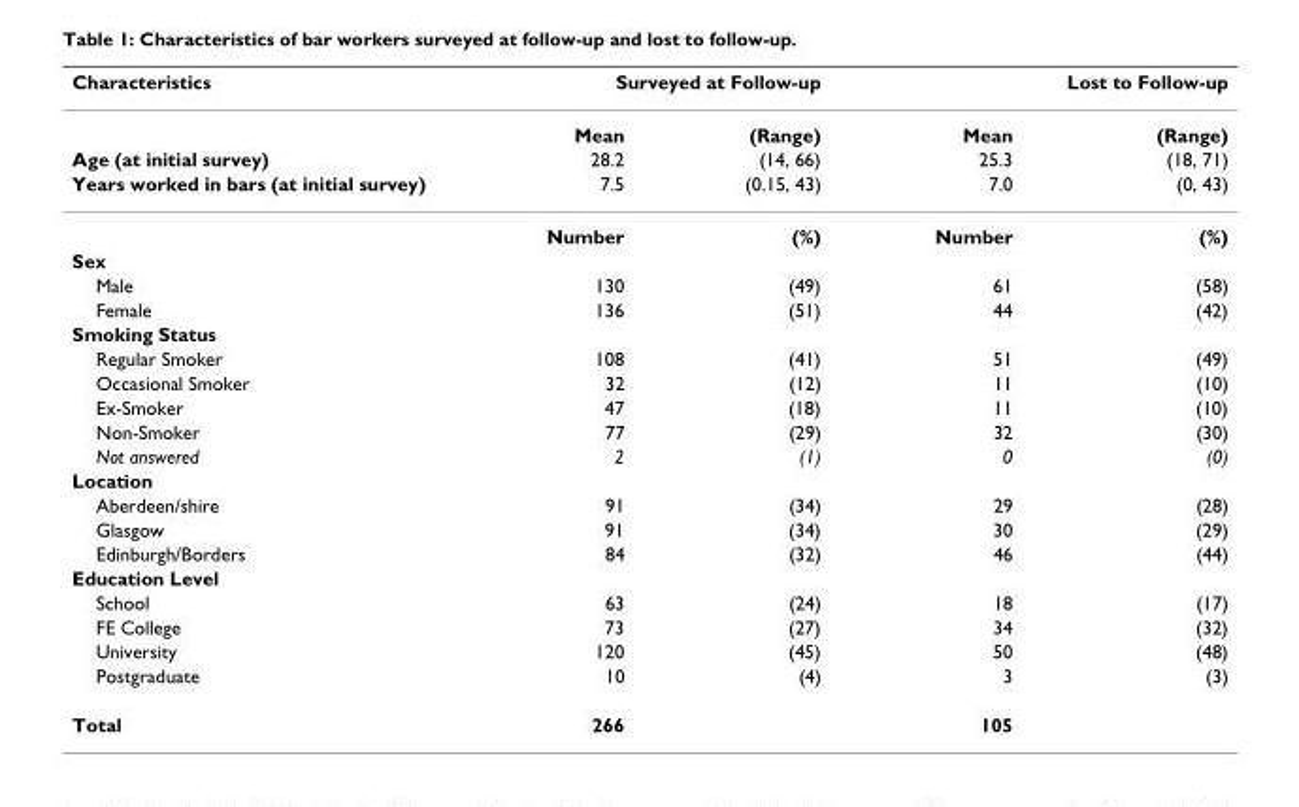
<table><thead><tr><td rowspan="2">Characteristics</td><td colspan="2">Surveyed at Follow-up</td><td colspan="2">Lost to Follow-up</td></tr><tr><td>Mean</td><td>(Range)</td><td>Mean</td><td>(Range)</td></tr></thead><tbody><tr><td>Age (at initial survey)</td><td>28.2</td><td>(14, 66)</td><td>25.3</td><td>(18, 71)</td></tr><tr><td rowspan="2">Years worked in bars (at initial survey)</td><td>7.5</td><td>(0.15, 43)</td><td>7.0</td><td>(0, 43)</td></tr><tr><td>Number</td><td>(%)</td><td>Number</td><td>(%)</td></tr><tr><td colspan="5">Sex</td></tr><tr><td>Male</td><td>130</td><td>(49)</td><td>61</td><td>(58)</td></tr><tr><td>Female</td><td>136</td><td>(51)</td><td>44</td><td>(42)</td></tr><tr><td colspan="5">Smoking Status</td></tr><tr><td>Regular Smoker</td><td>108</td><td>(41)</td><td>51</td><td>(49)</td></tr><tr><td>Occasional Smoker</td><td>32</td><td>(12)</td><td>11</td><td>(10)</td></tr><tr><td>Ex-Smoker</td><td>47</td><td>(18)</td><td>11</td><td>(10)</td></tr><tr><td>Non-Smoker</td><td>77</td><td>(29)</td><td>32</td><td>(30)</td></tr><tr><td>Not answered</td><td>2</td><td>(1)</td><td>0</td><td>(0)</td></tr><tr><td colspan="5">Location</td></tr><tr><td>Aberdeen/shire</td><td>91</td><td>(34)</td><td>29</td><td>(28)</td></tr><tr><td>Glasgow</td><td>91</td><td>(34)</td><td>30</td><td>(29)</td></tr><tr><td>Edinburgh/Borders</td><td>84</td><td>(32)</td><td>46</td><td>(44)</td></tr><tr><td colspan="5">Education Level</td></tr><tr><td>School</td><td>63</td><td>(24)</td><td>18</td><td>(17)</td></tr><tr><td>FE College</td><td>73</td><td>(27)</td><td>34</td><td>(32)</td></tr><tr><td>University</td><td>120</td><td>(45)</td><td>50</td><td>(48)</td></tr><tr><td>Postgraduate</td><td>10</td><td>(4)</td><td>3</td><td>(3)</td></tr><tr><td>Total</td><td>266</td><td></td><td>105</td><td></td></tr></tbody></table>